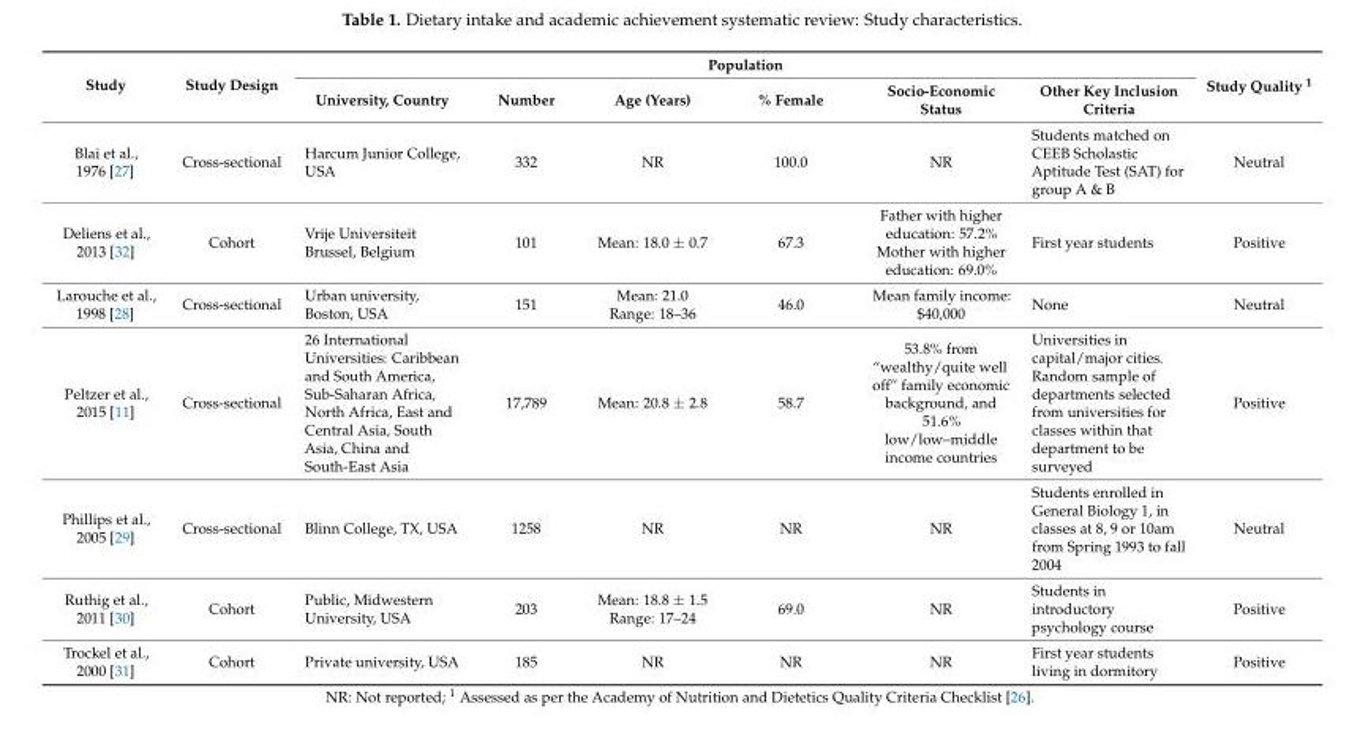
<table><thead><tr><td rowspan="2">Study</td><td rowspan="2">Study Design</td><td colspan="6">Population</td><td rowspan="2">Study Quality <sup>1</sup></td></tr><tr><td>University, Country</td><td>Number</td><td>Age (Years)</td><td>% Female</td><td>Socio-Economic Status</td><td>Other Key Inclusion Criteria</td></tr></thead><tbody><tr><td>Blai et al., 1976 [27]</td><td>Cross-sectional</td><td>Harcum Junior College, USA</td><td>332</td><td>NR</td><td>100.0</td><td>NR</td><td>Students matched on CEEB Scholastic Aptitude Test (SAT) for group A &amp; B</td><td>Neutral</td></tr><tr><td>Deliens et al., 2013 [32]</td><td>Cohort</td><td>Vrije Universiteit Brussel, Belgium</td><td>101</td><td>Mean: 18.0 ± 0.7</td><td>67.3</td><td>Father with higher education: 57.2% Mother with higher education: 69.0%</td><td>First year students</td><td>Positive</td></tr><tr><td>Larouche et al., 1998 [28]</td><td>Cross-sectional</td><td>Urban university, Boston, USA</td><td>151</td><td>Mean: 21.0 Range: 18–36</td><td>46.0</td><td>Mean family income: $40,000</td><td>None</td><td>Neutral</td></tr><tr><td>Peltzer et al., 2015 [11]</td><td>Cross-sectional</td><td>26 International Universities: Caribbean and South America, Sub-Saharan Africa, North Africa, East and Central Asia, South Asia, China and South-East Asia</td><td>17,789</td><td>Mean: 20.8 ± 2.8</td><td>58.7</td><td>53.8% from “wealthy/quite well off” family economic background, and 51.6% low/low–middle income countries</td><td>Universities in capital/major cities. Random sample of departments selected from universities for classes within that department to be surveyed</td><td>Positive</td></tr><tr><td>Phillips et al., 2005 [29]</td><td>Cross-sectional</td><td>Blinn College, TX, USA</td><td>1258</td><td>NR</td><td>NR</td><td>NR</td><td>Students enrolled in General Biology 1, in classes at 8, 9 or 10am from Spring 1993 to fall 2004</td><td>Neutral</td></tr><tr><td>Ruthig et al., 2011 [30]</td><td>Cohort</td><td>Public, Midwestern University, USA</td><td>203</td><td>Mean: 18.8 ± 1.5 Range: 17–24</td><td>69.0</td><td>NR</td><td>Students in introductory psychology course</td><td>Positive</td></tr><tr><td>Trockel et al., 2000 [31]</td><td>Cohort</td><td>Private university, USA</td><td>185</td><td>NR</td><td>NR</td><td>NR</td><td>First year students living in dormitory</td><td>Positive</td></tr></tbody></table>